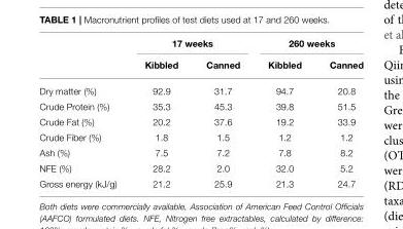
<table><thead><tr><td rowspan="2"></td><td colspan="2">17 weeks</td><td colspan="2">260 weeks</td></tr><tr><td>Kibbled</td><td>Canned</td><td>Kibbled</td><td>Canned</td></tr></thead><tbody><tr><td>Dry matter (%)</td><td>92.9</td><td>31.7</td><td>94.7</td><td>20.8</td></tr><tr><td>Crude Protein (%)</td><td>35.3</td><td>45.3</td><td>39.8</td><td>51.5</td></tr><tr><td>Crude Fat (%)</td><td>20.2</td><td>37.6</td><td>19.2</td><td>33.9</td></tr><tr><td>Crude Fiber (%)</td><td>1.8</td><td>1.5</td><td>1.2</td><td>1.2</td></tr><tr><td>Ash (%)</td><td>7.5</td><td>7.2</td><td>7.8</td><td>8.2</td></tr><tr><td>NFE (%)</td><td>28.2</td><td>2.0</td><td>32.0</td><td>5.2</td></tr><tr><td>Gross energy (kJ/g)</td><td>21.2</td><td>25.9</td><td>21.3</td><td>24.7</td></tr></tbody></table>